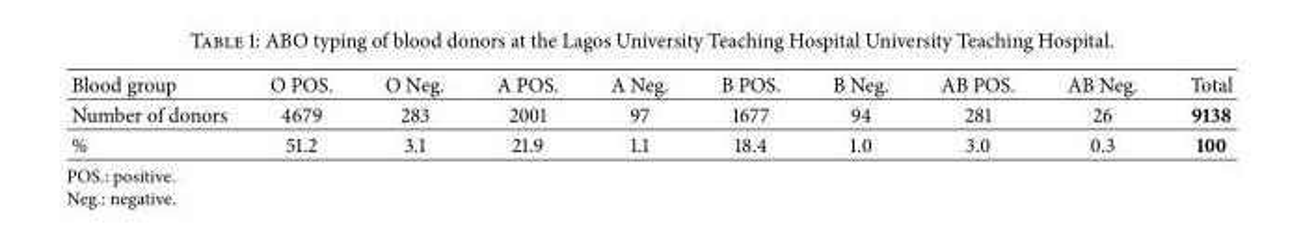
<table><tbody><tr><td>Blood group</td><td>O POS.</td><td>O Neg.</td><td>A POS.</td><td>A Neg.</td><td>B POS.</td><td>B Neg.</td><td>AB POS.</td><td>AB Neg.</td><td>Total</td></tr><tr><td>Number of donors</td><td>4679</td><td>283</td><td>2001</td><td>97</td><td>1677</td><td>94</td><td>281</td><td>26</td><td>9138</td></tr><tr><td>%</td><td>51.2</td><td>3.1</td><td>21.9</td><td>1.1</td><td>18.4</td><td>1.0</td><td>3.0</td><td>0.3</td><td>100</td></tr></tbody></table>